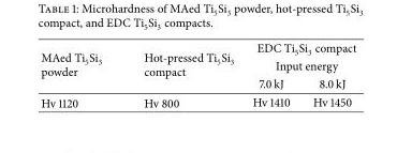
<table><thead><tr><td rowspan="3">MAed Ti<sub>5</sub>Si<sub>3</sub> powder</td><td rowspan="3">Hot-pressed Ti<sub>5</sub>Si<sub>3</sub> compact</td><td rowspan="2" colspan="2">EDC Ti<sub>5</sub>Si<sub>3</sub> compact Input energy</td></tr><tr></tr><tr><td>7.0 kJ</td><td>8.0 kJ</td></tr></thead><tbody><tr><td>Hv 1120</td><td>Hv 800</td><td>Hv 1410</td><td>Hv 1450</td></tr></tbody></table>